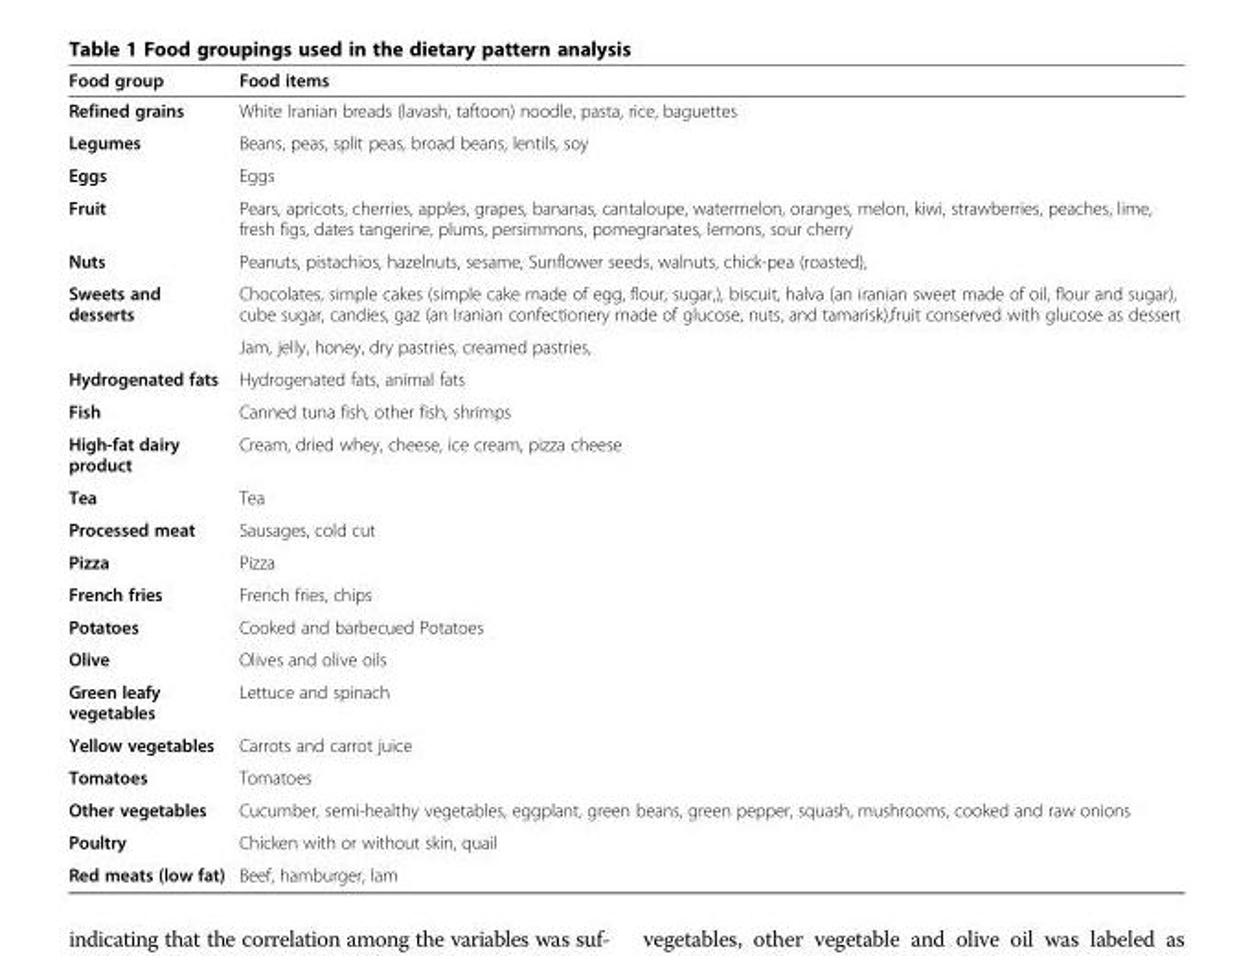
<table><thead><tr><td>Food group</td><td>Food items</td></tr></thead><tbody><tr><td>Refined grains</td><td>White Iranian breads (lavash, taftoon) noodle, pasta, rice, baguettes</td></tr><tr><td>Legumes</td><td>Beans, peas, split peas, broad beans, lentils, soy</td></tr><tr><td>Eggs</td><td>Eggs</td></tr><tr><td>Fruit</td><td>Pears, apricots, cherries, apples, grapes, bananas, cantaloupe, watermelon, oranges, melon, kiwi, strawberries, peaches, lime, fresh figs, dates tangerine, plums, persimmons, pomegranates, lemons, sour cherry</td></tr><tr><td>Nuts</td><td>Peanuts, pistachios, hazelnuts, sesame, Sunflower seeds, walnuts, chick-pea (roasted),</td></tr><tr><td rowspan="2">Sweets and desserts</td><td>Chocolates, simple cakes (simple cake made of egg, flour, sugar,), biscuit, halva (an iranian sweet made of oil, flour and sugar), cube sugar, candies, gaz (an Iranian confectionery made of glucose, nuts, and tamarisk),fruit conserved with glucose as dessert</td></tr><tr><td>Jam, jelly, honey, dry pastries, creamed pastries,</td></tr><tr><td>Hydrogenated fats</td><td>Hydrogenated fats, animal fats</td></tr><tr><td>Fish</td><td>Canned tuna fish, other fish, shrimps</td></tr><tr><td>High-fat dairy product</td><td>Cream, dried whey, cheese, ice cream, pizza cheese</td></tr><tr><td>Tea</td><td>Tea</td></tr><tr><td>Processed meat</td><td>Sausages, cold cut</td></tr><tr><td>Pizza</td><td>Pizza</td></tr><tr><td>French fries</td><td>French fries, chips</td></tr><tr><td>Potatoes</td><td>Cooked and barbecued Potatoes</td></tr><tr><td>Olive</td><td>Olives and olive oils</td></tr><tr><td>Green leafy vegetables</td><td>Lettuce and spinach</td></tr><tr><td>Yellow vegetables</td><td>Carrots and carrot juice</td></tr><tr><td>Tomatoes</td><td>Tomatoes</td></tr><tr><td>Other vegetables</td><td>Cucumber, semi-healthy vegetables, eggplant, green beans, green pepper, squash, mushrooms, cooked and raw onions</td></tr><tr><td>Poultry</td><td>Chicken with or without skin, quail</td></tr><tr><td>Red meats (low fat)</td><td>Beef, hamburger, lam</td></tr></tbody></table>